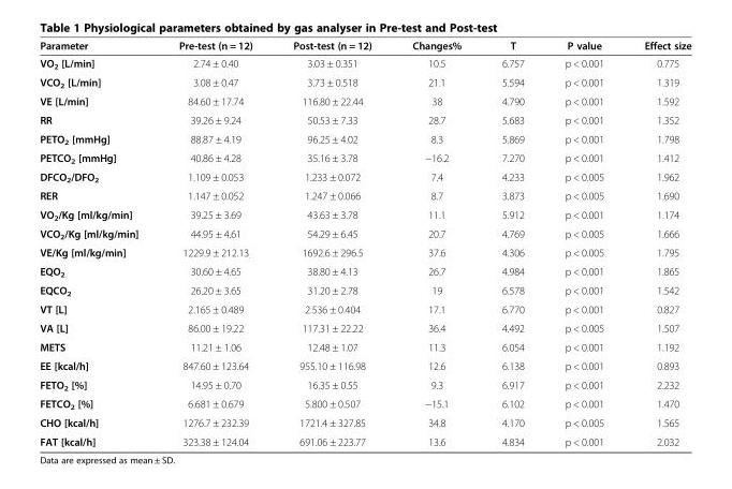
<table><thead><tr><td>Parameter</td><td>Pre-test (n = 12)</td><td>Post-test (n = 12)</td><td>Changes%</td><td>T</td><td>P value</td><td>Effect size</td></tr></thead><tbody><tr><td>VO<sub>2</sub> [L/min]</td><td>2.74 ± 0.40</td><td>3.03 ± 0.351</td><td>10.5</td><td>6.757</td><td>p &lt; 0.001</td><td>0.775</td></tr><tr><td>VCO<sub>2</sub> [L/min]</td><td>3.08 ± 0.47</td><td>3.73 ± 0.518</td><td>21.1</td><td>5.594</td><td>p &lt; 0.001</td><td>1.319</td></tr><tr><td>VE [L/min]</td><td>84.60 ± 17.74</td><td>116.80 ± 22.44</td><td>38</td><td>4.790</td><td>p &lt; 0.001</td><td>1.592</td></tr><tr><td>RR</td><td>39.26 ± 9.24</td><td>50.53 ± 7.33</td><td>28.7</td><td>5.683</td><td>p &lt; 0.001</td><td>1.352</td></tr><tr><td>PETO<sub>2</sub> [mmHg]</td><td>88.87 ± 4.19</td><td>96.25 ± 4.02</td><td>8.3</td><td>5.869</td><td>p &lt; 0.001</td><td>1.798</td></tr><tr><td>PETCO<sub>2</sub> [mmHg]</td><td>40.86 ± 4.28</td><td>35.16 ± 3.78</td><td>−16.2</td><td>7.270</td><td>p &lt; 0.001</td><td>1.412</td></tr><tr><td>DFCO<sub>2</sub>/DFO<sub>2</sub></td><td>1.109 ± 0.053</td><td>1.233 ± 0.072</td><td>7.4</td><td>4.233</td><td>p &lt; 0.005</td><td>1.962</td></tr><tr><td>RER</td><td>1.147 ± 0.052</td><td>1.247 ± 0.066</td><td>8.7</td><td>3.873</td><td>p &lt; 0.005</td><td>1.690</td></tr><tr><td>VO<sub>2</sub>/Kg [ml/kg/min]</td><td>39.25 ± 3.69</td><td>43.63 ± 3.78</td><td>11.1</td><td>5.912</td><td>p &lt; 0.001</td><td>1.174</td></tr><tr><td>VCO<sub>2</sub>/Kg [ml/kg/min]</td><td>44.95 ± 4.61</td><td>54.29 ± 6.45</td><td>20.7</td><td>4.769</td><td>p &lt; 0.005</td><td>1.666</td></tr><tr><td>VE/Kg [ml/kg/min]</td><td>1229.9 ± 212.13</td><td>1692.6 ± 296.5</td><td>37.6</td><td>4.306</td><td>p &lt; 0.005</td><td>1.795</td></tr><tr><td>EQO<sub>2</sub></td><td>30.60 ± 4.65</td><td>38.80 ± 4.13</td><td>26.7</td><td>4.984</td><td>p &lt; 0.001</td><td>1.865</td></tr><tr><td>EQCO<sub>2</sub></td><td>26.20 ± 3.65</td><td>31.20 ± 2.78</td><td>19</td><td>6.578</td><td>p &lt; 0.001</td><td>1.542</td></tr><tr><td>VT [L]</td><td>2.165 ± 0.489</td><td>2.536 ± 0.404</td><td>17.1</td><td>6.770</td><td>p &lt; 0.001</td><td>0.827</td></tr><tr><td>VA [L]</td><td>86.00 ± 19.22</td><td>117.31 ± 22.22</td><td>36.4</td><td>4.492</td><td>p &lt; 0.005</td><td>1.507</td></tr><tr><td>METS</td><td>11.21 ± 1.06</td><td>12.48 ± 1.07</td><td>11.3</td><td>6.054</td><td>p &lt; 0.001</td><td>1.192</td></tr><tr><td>EE [kcal/h]</td><td>847.60 ± 123.64</td><td>955.10 ± 116.98</td><td>12.6</td><td>6.138</td><td>p &lt; 0.001</td><td>0.893</td></tr><tr><td>FETO<sub>2</sub> [%]</td><td>14.95 ± 0.70</td><td>16.35 ± 0.55</td><td>9.3</td><td>6.917</td><td>p &lt; 0.001</td><td>2.232</td></tr><tr><td>FETCO<sub>2</sub> [%]</td><td>6.681 ± 0.679</td><td>5.800 ± 0.507</td><td>−15.1</td><td>6.102</td><td>p &lt; 0.001</td><td>1.470</td></tr><tr><td>CHO [kcal/h]</td><td>1276.7 ± 232.39</td><td>1721.4 ± 327.85</td><td>34.8</td><td>4.170</td><td>p &lt; 0.005</td><td>1.565</td></tr><tr><td>FAT [kcal/h]</td><td>323.38 ± 124.04</td><td>691.06 ± 223.77</td><td>13.6</td><td>4.834</td><td>p &lt; 0.001</td><td>2.032</td></tr></tbody></table>